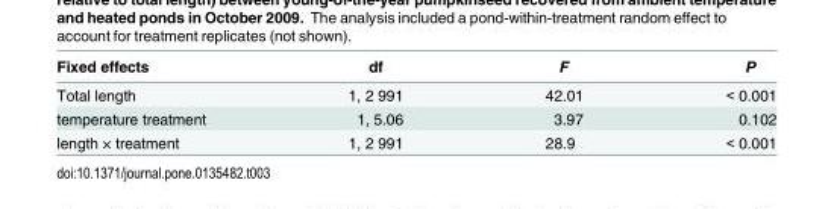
<table><thead><tr><td>Fixed effects</td><td>df</td><td>F</td><td>P</td></tr></thead><tbody><tr><td>Total length</td><td>1, 2 991</td><td>42.01</td><td>&lt; 0.001</td></tr><tr><td>temperature treatment</td><td>1, 5.06</td><td>3.97</td><td>0.102</td></tr><tr><td>length × treatment</td><td>1, 2 991</td><td>28.9</td><td>&lt; 0.001</td></tr></tbody></table>